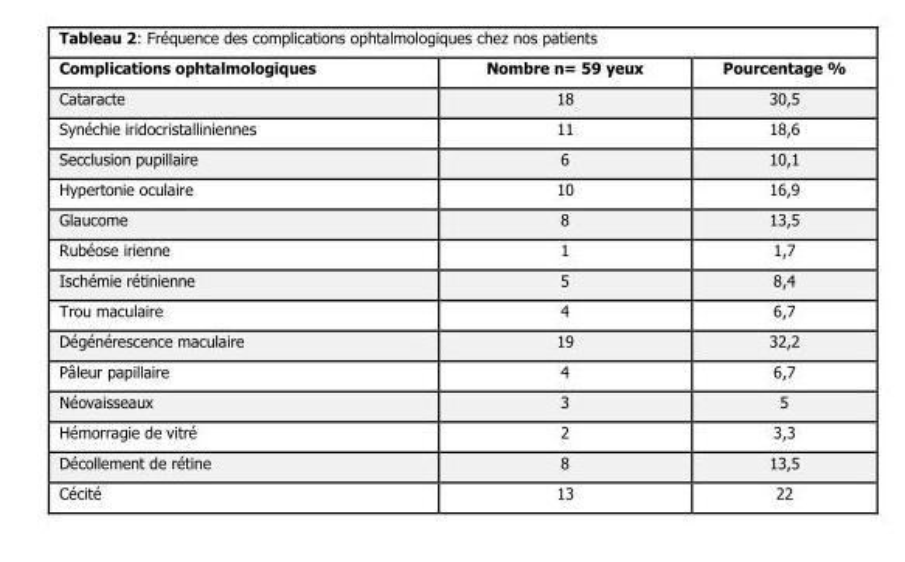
<table><thead><tr><td>Complications ophtalmologiques</td><td>Nombre n= 59 yeux</td><td>Pourcentage %</td></tr></thead><tbody><tr><td>Cataracte</td><td>18</td><td>30,5</td></tr><tr><td>Synéchie iridocristalliniennes</td><td>11</td><td>18,6</td></tr><tr><td>Secclusion pupillaire</td><td>6</td><td>10,1</td></tr><tr><td>Hypertonie oculaire</td><td>10</td><td>16,9</td></tr><tr><td>Glaucome</td><td>8</td><td>13,5</td></tr><tr><td>Rubéose irienne</td><td>1</td><td>1,7</td></tr><tr><td>Ischémie rétinienne</td><td>5</td><td>8,4</td></tr><tr><td>Trou maculaire</td><td>4</td><td>6,7</td></tr><tr><td>Dégénérescence maculaire</td><td>19</td><td>32,2</td></tr><tr><td>Pâleur papillaire</td><td>4</td><td>6,7</td></tr><tr><td>Néovaisseaux</td><td>3</td><td>5</td></tr><tr><td>Hémorragie de vitré</td><td>2</td><td>3,3</td></tr><tr><td>Décollement de rétine</td><td>8</td><td>13,5</td></tr><tr><td>Cécité</td><td>13</td><td>22</td></tr></tbody></table>